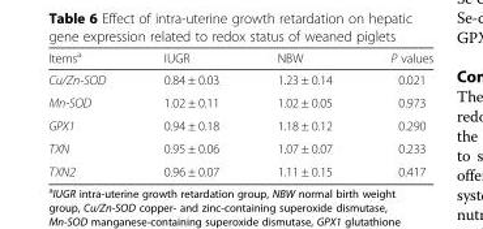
<table><thead><tr><td>Items<sup>a</sup></td><td>IUGR</td><td>NBW</td><td>P values</td></tr></thead><tbody><tr><td>Cu/Zn-SOD</td><td>0.84 ± 0.03</td><td>1.23 ± 0.14</td><td>0.021</td></tr><tr><td>Mn-SOD</td><td>1.02 ± 0.11</td><td>1.02 ± 0.05</td><td>0.973</td></tr><tr><td>GPX1</td><td>0.94 ± 0.18</td><td>1.18 ± 0.12</td><td>0.290</td></tr><tr><td>TXN</td><td>0.95 ± 0.06</td><td>1.07 ± 0.07</td><td>0.233</td></tr><tr><td>TXN2</td><td>0.96 ± 0.07</td><td>1.11 ± 0.15</td><td>0.417</td></tr></tbody></table>